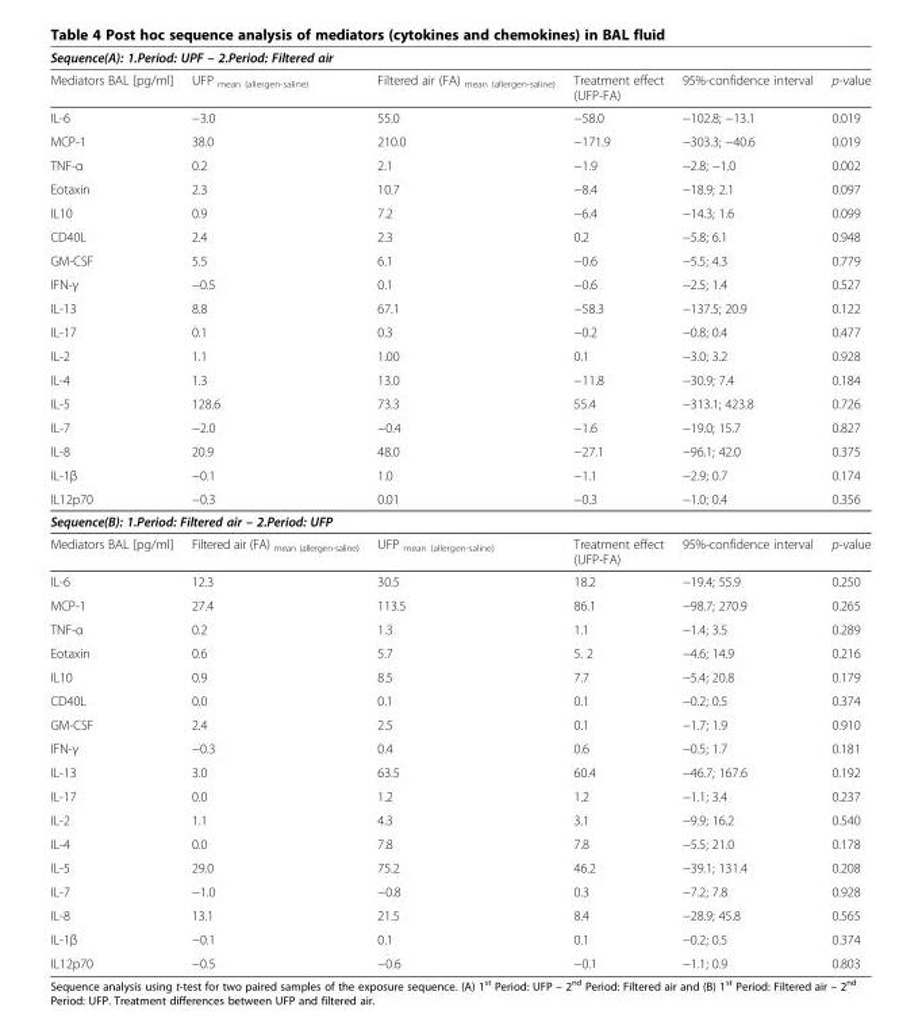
<table><tbody><tr><td colspan="6">Sequence(A): 1.Period: UPF – 2.Period: Filtered air</td></tr><tr><td>Mediators BAL [pg/ml]</td><td>UFP <sub>mean (allergen-saline)</sub></td><td>Filtered air (FA) <sub>mean (allergen-saline)</sub></td><td>Treatment effect (UFP-FA)</td><td>95%-confidence interval</td><td>p-value</td></tr><tr><td>IL-6</td><td>−3.0</td><td>55.0</td><td>−58.0</td><td>−102.8; −13.1</td><td>0.019</td></tr><tr><td>MCP-1</td><td>38.0</td><td>210.0</td><td>−171.9</td><td>−303.3; −40.6</td><td>0.019</td></tr><tr><td>TNF-α</td><td>0.2</td><td>2.1</td><td>−1.9</td><td>−2.8; −1.0</td><td>0.002</td></tr><tr><td>Eotaxin</td><td>2.3</td><td>10.7</td><td>−8.4</td><td>−18.9; 2.1</td><td>0.097</td></tr><tr><td>IL10</td><td>0.9</td><td>7.2</td><td>−6.4</td><td>−14.3; 1.6</td><td>0.099</td></tr><tr><td>CD40L</td><td>2.4</td><td>2.3</td><td>0.2</td><td>−5.8; 6.1</td><td>0.948</td></tr><tr><td>GM-CSF</td><td>5.5</td><td>6.1</td><td>−0.6</td><td>−5.5; 4.3</td><td>0.779</td></tr><tr><td>IFN-γ</td><td>−0.5</td><td>0.1</td><td>−0.6</td><td>−2.5; 1.4</td><td>0.527</td></tr><tr><td>IL-13</td><td>8.8</td><td>67.1</td><td>−58.3</td><td>−137.5; 20.9</td><td>0.122</td></tr><tr><td>IL-17</td><td>0.1</td><td>0.3</td><td>−0.2</td><td>−0.8; 0.4</td><td>0.477</td></tr><tr><td>IL-2</td><td>1.1</td><td>1.00</td><td>0.1</td><td>−3.0; 3.2</td><td>0.928</td></tr><tr><td>IL-4</td><td>1.3</td><td>13.0</td><td>−11.8</td><td>−30.9; 7.4</td><td>0.184</td></tr><tr><td>IL-5</td><td>128.6</td><td>73.3</td><td>55.4</td><td>−313.1; 423.8</td><td>0.726</td></tr><tr><td>IL-7</td><td>−2.0</td><td>−0.4</td><td>−1.6</td><td>−19.0; 15.7</td><td>0.827</td></tr><tr><td>IL-8</td><td>20.9</td><td>48.0</td><td>−27.1</td><td>−96.1; 42.0</td><td>0.375</td></tr><tr><td>IL-1β</td><td>−0.1</td><td>1.0</td><td>−1.1</td><td>−2.9; 0.7</td><td>0.174</td></tr><tr><td>IL12p70</td><td>−0.3</td><td>0.01</td><td>−0.3</td><td>−1.0; 0.4</td><td>0.356</td></tr><tr><td colspan="6">Sequence(B): 1.Period: Filtered air – 2.Period: UFP</td></tr><tr><td>Mediators BAL [pg/ml]</td><td>Filtered air (FA) <sub>mean (allergen-saline)</sub></td><td>UFP <sub>mean (allergen-saline)</sub></td><td>Treatment effect (UFP-FA)</td><td>95%-confidence interval</td><td>p-value</td></tr><tr><td>IL-6</td><td>12.3</td><td>30.5</td><td>18.2</td><td>−19.4; 55.9</td><td>0.250</td></tr><tr><td>MCP-1</td><td>27.4</td><td>113.5</td><td>86.1</td><td>−98.7; 270.9</td><td>0.265</td></tr><tr><td>TNF-α</td><td>0.2</td><td>1.3</td><td>1.1</td><td>−1.4; 3.5</td><td>0.289</td></tr><tr><td>Eotaxin</td><td>0.6</td><td>5.7</td><td>5. 2</td><td>−4.6; 14.9</td><td>0.216</td></tr><tr><td>IL10</td><td>0.9</td><td>8.5</td><td>7.7</td><td>−5.4; 20.8</td><td>0.179</td></tr><tr><td>CD40L</td><td>0.0</td><td>0.1</td><td>0.1</td><td>−0.2; 0.5</td><td>0.374</td></tr><tr><td>GM-CSF</td><td>2.4</td><td>2.5</td><td>0.1</td><td>−1.7; 1.9</td><td>0.910</td></tr><tr><td>IFN-γ</td><td>−0.3</td><td>0.4</td><td>0.6</td><td>−0.5; 1.7</td><td>0.181</td></tr><tr><td>IL-13</td><td>3.0</td><td>63.5</td><td>60.4</td><td>−46.7; 167.6</td><td>0.192</td></tr><tr><td>IL-17</td><td>0.0</td><td>1.2</td><td>1.2</td><td>−1.1; 3.4</td><td>0.237</td></tr><tr><td>IL-2</td><td>1.1</td><td>4.3</td><td>3.1</td><td>−9.9; 16.2</td><td>0.540</td></tr><tr><td>IL-4</td><td>0.0</td><td>7.8</td><td>7.8</td><td>−5.5; 21.0</td><td>0.178</td></tr><tr><td>IL-5</td><td>29.0</td><td>75.2</td><td>46.2</td><td>−39.1; 131.4</td><td>0.208</td></tr><tr><td>IL-7</td><td>−1.0</td><td>−0.8</td><td>0.3</td><td>−7.2; 7.8</td><td>0.928</td></tr><tr><td>IL-8</td><td>13.1</td><td>21.5</td><td>8.4</td><td>−28.9; 45.8</td><td>0.565</td></tr><tr><td>IL-1β</td><td>−0.1</td><td>0.1</td><td>0.1</td><td>−0.2; 0.5</td><td>0.374</td></tr><tr><td>IL12p70</td><td>−0.5</td><td>−0.6</td><td>−0.1</td><td>−1.1; 0.9</td><td>0.803</td></tr></tbody></table>